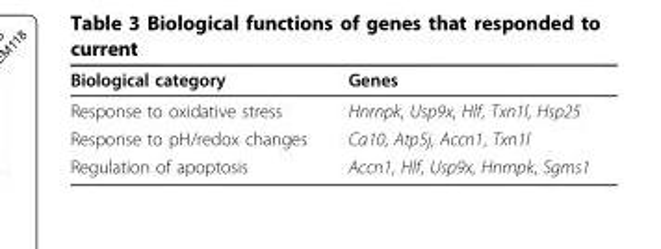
<table><thead><tr><td>Biological category</td><td>Genes</td></tr></thead><tbody><tr><td>Response to oxidative stress</td><td>Hnrnpk, Usp9x, Hlf, Txn1l, Hsp25</td></tr><tr><td>Response to pH/redox changes</td><td>Ca10, Atp5j, Accn1, Txn1l</td></tr><tr><td>Regulation of apoptosis</td><td>Accn1, Hlf, Usp9x, Hnrnpk, Sgms1</td></tr></tbody></table>